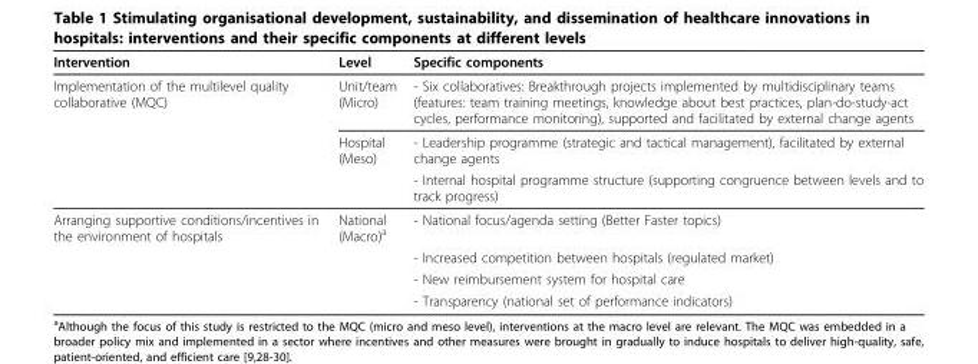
<table><thead><tr><td>Intervention</td><td>Level</td><td>Specific components</td></tr></thead><tbody><tr><td rowspan="3">Implementation of the multilevel quality collaborative (MQC)</td><td>Unit/team (Micro)</td><td>- Six collaboratives: Breakthrough projects implemented by multidisciplinary teams (features: team training meetings, knowledge about best practices, plan-do-study-act cycles, performance monitoring), supported and facilitated by external change agents</td></tr><tr><td>Hospital (Meso)</td><td>- Leadership programme (strategic and tactical management), facilitated by external change agents</td></tr><tr><td></td><td>- Internal hospital programme structure (supporting congruence between levels and to track progress)</td></tr><tr><td rowspan="4">Arranging supportive conditions/incentives in the environment of hospitals</td><td>National (Macro)<sup>a</sup></td><td>- National focus/agenda setting (Better Faster topics)</td></tr><tr><td></td><td>- Increased competition between hospitals (regulated market)</td></tr><tr><td></td><td>- New reimbursement system for hospital care</td></tr><tr><td></td><td>- Transparency (national set of performance indicators)</td></tr></tbody></table>